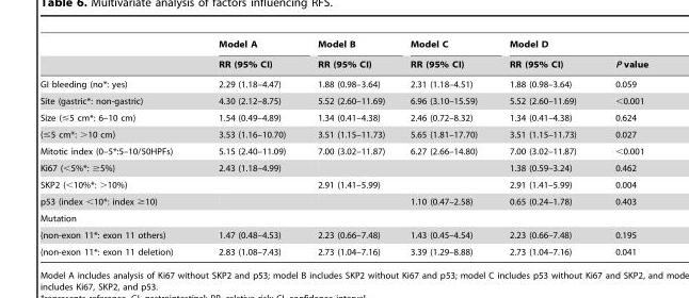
<table><thead><tr><td rowspan="2"></td><td rowspan="2">Model A RR (95% CI)</td><td rowspan="2">Model B RR (95% CI)</td><td rowspan="2">Model C RR (95% CI)</td><td colspan="2">Model D</td></tr><tr><td>RR (95% CI)</td><td>P value</td></tr></thead><tbody><tr><td>GI bleeding (no*: yes)</td><td>2.29 (1.18–4.47)</td><td>1.88 (0.98–3.64)</td><td>2.31 (1.18–4.51)</td><td>1.88 (0.98–3.64)</td><td>0.059</td></tr><tr><td>Site (gastric*: non-gastric)</td><td>4.30 (2.12–8.75)</td><td>5.52 (2.60–11.69)</td><td>6.96 (3.10–15.59)</td><td>5.52 (2.60–11.69)</td><td>&lt;0.001</td></tr><tr><td>Size (≤5 cm*: 6–10 cm)</td><td>1.54 (0.49–4.89)</td><td>1.34 (0.41–4.38)</td><td>2.46 (0.72–8.32)</td><td>1.34 (0.41–4.38)</td><td>0.624</td></tr><tr><td>(≤5 cm*: &gt;10 cm)</td><td>3.53 (1.16–10.70)</td><td>3.51 (1.15–11.73)</td><td>5.65 (1.81–17.70)</td><td>3.51 (1.15–11.73)</td><td>0.027</td></tr><tr><td>Mitotic index (0–5*:5–10/50HPFs)</td><td>5.15 (2.40–11.09)</td><td>7.00 (3.02–11.87)</td><td>6.27 (2.66–14.80)</td><td>7.00 (3.02–11.87)</td><td>&lt;0.001</td></tr><tr><td>Ki67 (&lt;5%*: ≥5%)</td><td>2.43 (1.18–4.99)</td><td></td><td></td><td>1.38 (0.59–3.24)</td><td>0.462</td></tr><tr><td>SKP2 (&lt;10%*: &gt;10%)</td><td></td><td>2.91 (1.41–5.99)</td><td></td><td>2.91 (1.41–5.99)</td><td>0.004</td></tr><tr><td>p53 (index &lt;10*: index ≥10)</td><td></td><td></td><td>1.10 (0.47–2.58)</td><td>0.65 (0.24–1.78)</td><td>0.403</td></tr><tr><td colspan="6">Mutation</td></tr><tr><td>(non-exon 11*: exon 11 others)</td><td>1.47 (0.48–4.53)</td><td>2.23 (0.66–7.48)</td><td>1.43 (0.45–4.54)</td><td>2.23 (0.66–7.48)</td><td>0.195</td></tr><tr><td>(non-exon 11*: exon 11 deletion)</td><td>2.83 (1.08–7.43)</td><td>2.73 (1.04–7.16)</td><td>3.39 (1.29–8.88)</td><td>2.73 (1.04–7.16)</td><td>0.041</td></tr></tbody></table>